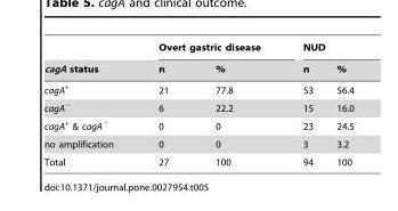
<table><thead><tr><td rowspan="2">cagA status</td><td colspan="2">Overt gastric disease</td><td colspan="2">NUD</td></tr><tr><td>n</td><td>%</td><td>n</td><td>%</td></tr></thead><tbody><tr><td>cagA<sup>+</sup></td><td>21</td><td>77.8</td><td>53</td><td>56.4</td></tr><tr><td>cagA<sup>−</sup></td><td>6</td><td>22.2</td><td>15</td><td>16.0</td></tr><tr><td>cagA<sup>+</sup> &amp; cagA<sup>−</sup></td><td>0</td><td>0</td><td>23</td><td>24.5</td></tr><tr><td>no amplification</td><td>0</td><td>0</td><td>3</td><td>3.2</td></tr><tr><td>Total</td><td>27</td><td>100</td><td>94</td><td>100</td></tr></tbody></table>